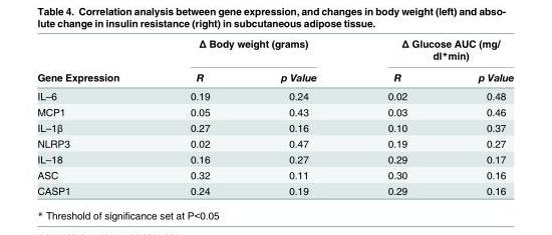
<table><thead><tr><td rowspan="2">Gene Expression</td><td colspan="2">Δ Body weight (grams)</td><td colspan="2">Δ Glucose AUC (mg/ dl*min)</td></tr><tr><td>R</td><td>p Value</td><td>R</td><td>p Value</td></tr></thead><tbody><tr><td>IL–6</td><td>0.19</td><td>0.24</td><td>0.02</td><td>0.48</td></tr><tr><td>MCP1</td><td>0.05</td><td>0.43</td><td>0.03</td><td>0.46</td></tr><tr><td>IL–1β</td><td>0.27</td><td>0.16</td><td>0.10</td><td>0.37</td></tr><tr><td>NLRP3</td><td>0.02</td><td>0.47</td><td>0.19</td><td>0.27</td></tr><tr><td>IL–18</td><td>0.16</td><td>0.27</td><td>0.29</td><td>0.17</td></tr><tr><td>ASC</td><td>0.32</td><td>0.11</td><td>0.30</td><td>0.16</td></tr><tr><td>CASP1</td><td>0.24</td><td>0.19</td><td>0.29</td><td>0.16</td></tr></tbody></table>